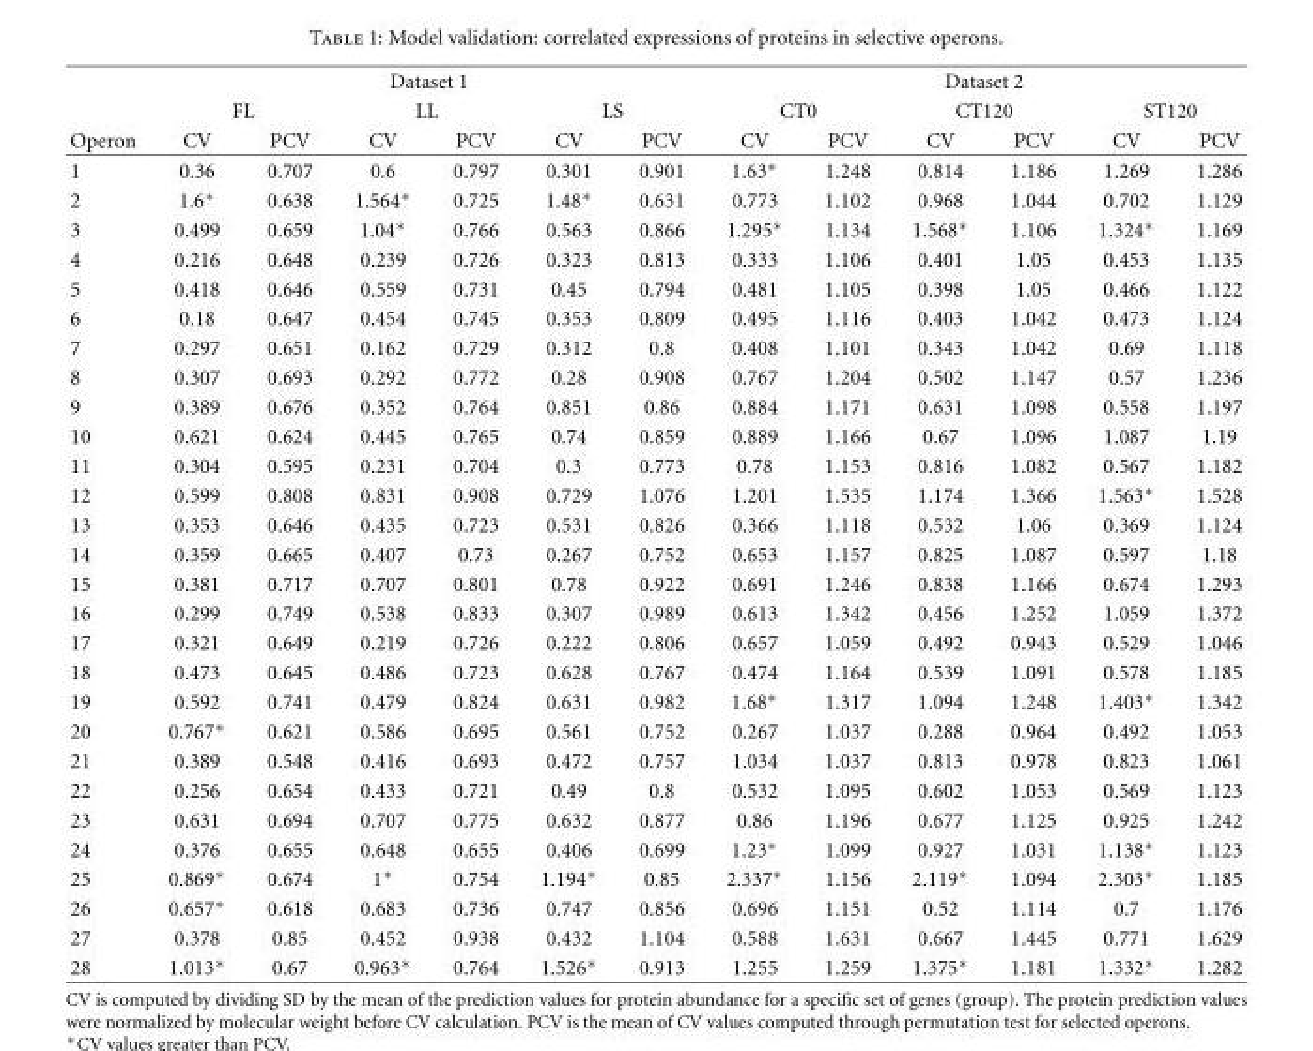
<table><thead><tr><td rowspan="3">Operon</td><td colspan="6">Dataset 1</td><td colspan="6">Dataset 2</td></tr><tr><td colspan="2">FL</td><td colspan="2">LL</td><td colspan="2">LS</td><td colspan="2">CT0</td><td colspan="2">CT120</td><td colspan="2">ST120</td></tr><tr><td>CV</td><td>PCV</td><td>CV</td><td>PCV</td><td>CV</td><td>PCV</td><td>CV</td><td>PCV</td><td>CV</td><td>PCV</td><td>CV</td><td>PCV</td></tr></thead><tbody><tr><td>1</td><td>0.36</td><td>0.707</td><td>0.6</td><td>0.797</td><td>0.301</td><td>0.901</td><td>1.63∗</td><td>1.248</td><td>0.814</td><td>1.186</td><td>1.269</td><td>1.286</td></tr><tr><td>2</td><td>1.6∗</td><td>0.638</td><td>1.564∗</td><td>0.725</td><td>1.48∗</td><td>0.631</td><td>0.773</td><td>1.102</td><td>0.968</td><td>1.044</td><td>0.702</td><td>1.129</td></tr><tr><td>3</td><td>0.499</td><td>0.659</td><td>1.04∗</td><td>0.766</td><td>0.563</td><td>0.866</td><td>1.295∗</td><td>1.134</td><td>1.568∗</td><td>1.106</td><td>1.324∗</td><td>1.169</td></tr><tr><td>4</td><td>0.216</td><td>0.648</td><td>0.239</td><td>0.726</td><td>0.323</td><td>0.813</td><td>0.333</td><td>1.106</td><td>0.401</td><td>1.05</td><td>0.453</td><td>1.135</td></tr><tr><td>5</td><td>0.418</td><td>0.646</td><td>0.559</td><td>0.731</td><td>0.45</td><td>0.794</td><td>0.481</td><td>1.105</td><td>0.398</td><td>1.05</td><td>0.466</td><td>1.122</td></tr><tr><td>6</td><td>0.18</td><td>0.647</td><td>0.454</td><td>0.745</td><td>0.353</td><td>0.809</td><td>0.495</td><td>1.116</td><td>0.403</td><td>1.042</td><td>0.473</td><td>1.124</td></tr><tr><td>7</td><td>0.297</td><td>0.651</td><td>0.162</td><td>0.729</td><td>0.312</td><td>0.8</td><td>0.408</td><td>1.101</td><td>0.343</td><td>1.042</td><td>0.69</td><td>1.118</td></tr><tr><td>8</td><td>0.307</td><td>0.693</td><td>0.292</td><td>0.772</td><td>0.28</td><td>0.908</td><td>0.767</td><td>1.204</td><td>0.502</td><td>1.147</td><td>0.57</td><td>1.236</td></tr><tr><td>9</td><td>0.389</td><td>0.676</td><td>0.352</td><td>0.764</td><td>0.851</td><td>0.86</td><td>0.884</td><td>1.171</td><td>0.631</td><td>1.098</td><td>0.558</td><td>1.197</td></tr><tr><td>10</td><td>0.621</td><td>0.624</td><td>0.445</td><td>0.765</td><td>0.74</td><td>0.859</td><td>0.889</td><td>1.166</td><td>0.67</td><td>1.096</td><td>1.087</td><td>1.19</td></tr><tr><td>11</td><td>0.304</td><td>0.595</td><td>0.231</td><td>0.704</td><td>0.3</td><td>0.773</td><td>0.78</td><td>1.153</td><td>0.816</td><td>1.082</td><td>0.567</td><td>1.182</td></tr><tr><td>12</td><td>0.599</td><td>0.808</td><td>0.831</td><td>0.908</td><td>0.729</td><td>1.076</td><td>1.201</td><td>1.535</td><td>1.174</td><td>1.366</td><td>1.563∗</td><td>1.528</td></tr><tr><td>13</td><td>0.353</td><td>0.646</td><td>0.435</td><td>0.723</td><td>0.531</td><td>0.826</td><td>0.366</td><td>1.118</td><td>0.532</td><td>1.06</td><td>0.369</td><td>1.124</td></tr><tr><td>14</td><td>0.359</td><td>0.665</td><td>0.407</td><td>0.73</td><td>0.267</td><td>0.752</td><td>0.653</td><td>1.157</td><td>0.825</td><td>1.087</td><td>0.597</td><td>1.18</td></tr><tr><td>15</td><td>0.381</td><td>0.717</td><td>0.707</td><td>0.801</td><td>0.78</td><td>0.922</td><td>0.691</td><td>1.246</td><td>0.838</td><td>1.166</td><td>0.674</td><td>1.293</td></tr><tr><td>16</td><td>0.299</td><td>0.749</td><td>0.538</td><td>0.833</td><td>0.307</td><td>0.989</td><td>0.613</td><td>1.342</td><td>0.456</td><td>1.252</td><td>1.059</td><td>1.372</td></tr><tr><td>17</td><td>0.321</td><td>0.649</td><td>0.219</td><td>0.726</td><td>0.222</td><td>0.806</td><td>0.657</td><td>1.059</td><td>0.492</td><td>0.943</td><td>0.529</td><td>1.046</td></tr><tr><td>18</td><td>0.473</td><td>0.645</td><td>0.486</td><td>0.723</td><td>0.628</td><td>0.767</td><td>0.474</td><td>1.164</td><td>0.539</td><td>1.091</td><td>0.578</td><td>1.185</td></tr><tr><td>19</td><td>0.592</td><td>0.741</td><td>0.479</td><td>0.824</td><td>0.631</td><td>0.982</td><td>1.68∗</td><td>1.317</td><td>1.094</td><td>1.248</td><td>1.403∗</td><td>1.342</td></tr><tr><td>20</td><td>0.767∗</td><td>0.621</td><td>0.586</td><td>0.695</td><td>0.561</td><td>0.752</td><td>0.267</td><td>1.037</td><td>0.288</td><td>0.964</td><td>0.492</td><td>1.053</td></tr><tr><td>21</td><td>0.389</td><td>0.548</td><td>0.416</td><td>0.693</td><td>0.472</td><td>0.757</td><td>1.034</td><td>1.037</td><td>0.813</td><td>0.978</td><td>0.823</td><td>1.061</td></tr><tr><td>22</td><td>0.256</td><td>0.654</td><td>0.433</td><td>0.721</td><td>0.49</td><td>0.8</td><td>0.532</td><td>1.095</td><td>0.602</td><td>1.053</td><td>0.569</td><td>1.123</td></tr><tr><td>23</td><td>0.631</td><td>0.694</td><td>0.707</td><td>0.775</td><td>0.632</td><td>0.877</td><td>0.86</td><td>1.196</td><td>0.677</td><td>1.125</td><td>0.925</td><td>1.242</td></tr><tr><td>24</td><td>0.376</td><td>0.655</td><td>0.648</td><td>0.655</td><td>0.406</td><td>0.699</td><td>1.23∗</td><td>1.099</td><td>0.927</td><td>1.031</td><td>1.138∗</td><td>1.123</td></tr><tr><td>25</td><td>0.869∗</td><td>0.674</td><td>1∗</td><td>0.754</td><td>1.194∗</td><td>0.85</td><td>2.337∗</td><td>1.156</td><td>2.119∗</td><td>1.094</td><td>2.303∗</td><td>1.185</td></tr><tr><td>26</td><td>0.657∗</td><td>0.618</td><td>0.683</td><td>0.736</td><td>0.747</td><td>0.856</td><td>0.696</td><td>1.151</td><td>0.52</td><td>1.114</td><td>0.7</td><td>1.176</td></tr><tr><td>27</td><td>0.378</td><td>0.85</td><td>0.452</td><td>0.938</td><td>0.432</td><td>1.104</td><td>0.588</td><td>1.631</td><td>0.667</td><td>1.445</td><td>0.771</td><td>1.629</td></tr><tr><td>28</td><td>1.013∗</td><td>0.67</td><td>0.963∗</td><td>0.764</td><td>1.526∗</td><td>0.913</td><td>1.255</td><td>1.259</td><td>1.375∗</td><td>1.181</td><td>1.332∗</td><td>1.282</td></tr></tbody></table>